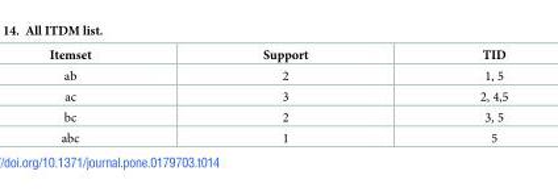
<table><thead><tr><td>Itemset</td><td>Support</td><td>TID</td></tr></thead><tbody><tr><td>ab</td><td>2</td><td>1, 5</td></tr><tr><td>ac</td><td>3</td><td>2, 4,5</td></tr><tr><td>bc</td><td>2</td><td>3, 5</td></tr><tr><td>abc</td><td>1</td><td>5</td></tr></tbody></table>